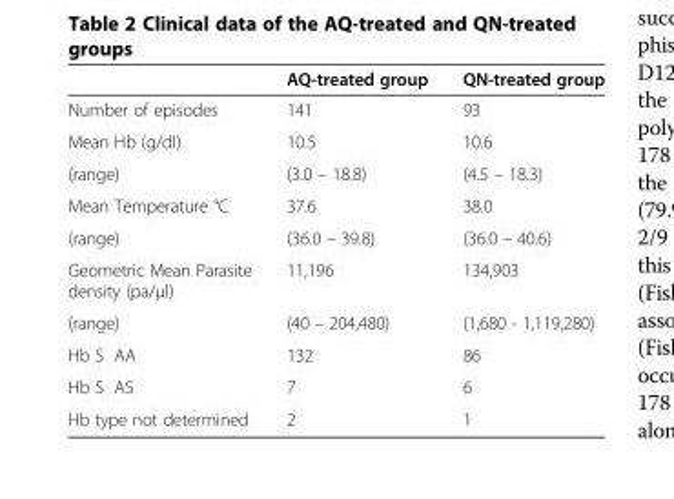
<table><thead><tr><td></td><td>AQ-treated group</td><td>QN-treated group</td></tr></thead><tbody><tr><td>Number of episodes</td><td>141</td><td>93</td></tr><tr><td>Mean Hb (g/dl)</td><td>10.5</td><td>10.6</td></tr><tr><td>(range)</td><td>(3.0 – 18.8)</td><td>(4.5 – 18.3)</td></tr><tr><td>Mean Temperature °C</td><td>37.6</td><td>38.0</td></tr><tr><td>(range)</td><td>(36.0 – 39.8)</td><td>(36.0 – 40.6)</td></tr><tr><td>Geometric Mean Parasite density (pa/μl)</td><td>11,196</td><td>134,903</td></tr><tr><td>(range)</td><td>(40 – 204,480)</td><td>(1,680 - 1,119,280)</td></tr><tr><td>Hb S AA</td><td>132</td><td>86</td></tr><tr><td>Hb S AS</td><td>7</td><td>6</td></tr><tr><td>Hb type not determined</td><td>2</td><td>1</td></tr></tbody></table>